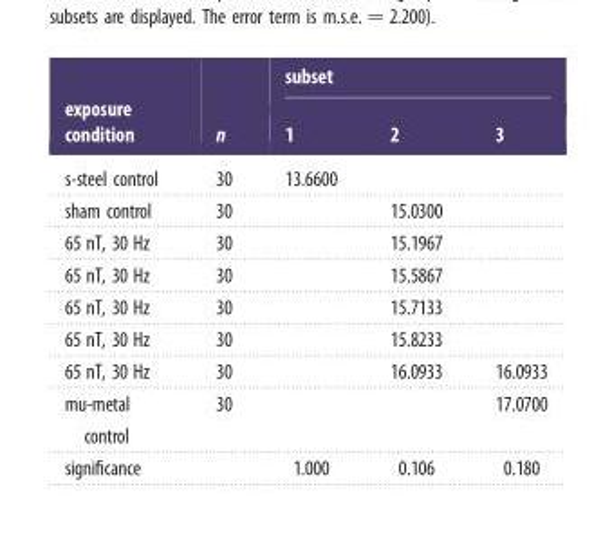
<table><thead><tr><td rowspan="2">exposure condition</td><td rowspan="2">n</td><td colspan="3">subset</td></tr><tr><td>1</td><td>2</td><td>3</td></tr></thead><tbody><tr><td>s-steel control</td><td>30</td><td>13.6600</td><td></td><td></td></tr><tr><td>sham control</td><td>30</td><td></td><td>15.0300</td><td></td></tr><tr><td>65 nT, 30 Hz</td><td>30</td><td></td><td>15.1967</td><td></td></tr><tr><td>65 nT, 30 Hz</td><td>30</td><td></td><td>15.5867</td><td></td></tr><tr><td>65 nT, 30 Hz</td><td>30</td><td></td><td>15.7133</td><td></td></tr><tr><td>65 nT, 30 Hz</td><td>30</td><td></td><td>15.8233</td><td></td></tr><tr><td>65 nT, 30 Hz</td><td>30</td><td></td><td>16.0933</td><td>16.0933</td></tr><tr><td>mu-metal control</td><td>30</td><td></td><td></td><td>17.0700</td></tr><tr><td>significance</td><td></td><td>1.000</td><td>0.106</td><td>0.180</td></tr></tbody></table>